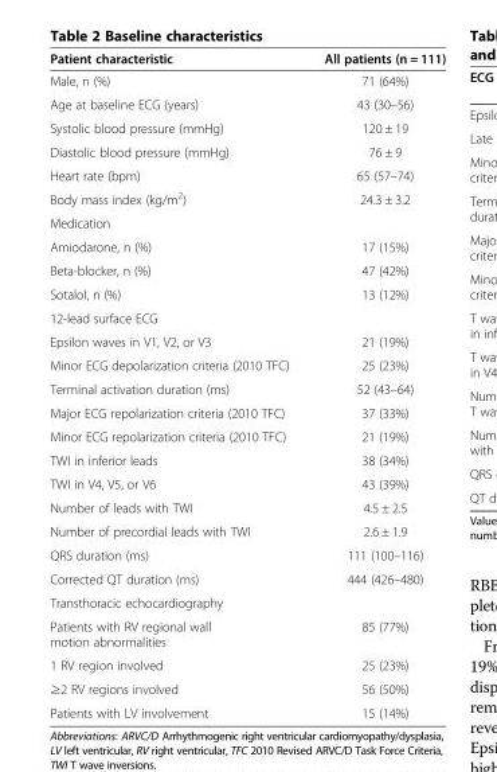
<table><thead><tr><td>Patient characteristic</td><td>All patients (n = 111)</td></tr></thead><tbody><tr><td>Male, n (%)</td><td>71 (64%)</td></tr><tr><td>Age at baseline ECG (years)</td><td>43 (30–56)</td></tr><tr><td>Systolic blood pressure (mmHg)</td><td>120 ± 19</td></tr><tr><td>Diastolic blood pressure (mmHg)</td><td>76 ± 9</td></tr><tr><td>Heart rate (bpm)</td><td>65 (57–74)</td></tr><tr><td>Body mass index (kg/m<sup>2</sup>)</td><td>24.3 ± 3.2</td></tr><tr><td colspan="2">Medication</td></tr><tr><td>Amiodarone, n (%)</td><td>17 (15%)</td></tr><tr><td>Beta-blocker, n (%)</td><td>47 (42%)</td></tr><tr><td>Sotalol, n (%)</td><td>13 (12%)</td></tr><tr><td colspan="2">12-lead surface ECG</td></tr><tr><td>Epsilon waves in V1, V2, or V3</td><td>21 (19%)</td></tr><tr><td>Minor ECG depolarization criteria (2010 TFC)</td><td>25 (23%)</td></tr><tr><td>Terminal activation duration (ms)</td><td>52 (43–64)</td></tr><tr><td>Major ECG repolarization criteria (2010 TFC)</td><td>37 (33%)</td></tr><tr><td>Minor ECG repolarization criteria (2010 TFC)</td><td>21 (19%)</td></tr><tr><td>TWI in inferior leads</td><td>38 (34%)</td></tr><tr><td>TWI in V4, V5, or V6</td><td>43 (39%)</td></tr><tr><td>Number of leads with TWI</td><td>4.5 ± 2.5</td></tr><tr><td>Number of precordial leads with TWI</td><td>2.6 ± 1.9</td></tr><tr><td>QRS duration (ms)</td><td>111 (100–116)</td></tr><tr><td>Corrected QT duration (ms)</td><td>444 (426–480)</td></tr><tr><td colspan="2">Transthoracic echocardiography</td></tr><tr><td>Patients with RV regional wall motion abnormalities</td><td>85 (77%)</td></tr><tr><td>1 RV region involved</td><td>25 (23%)</td></tr><tr><td>≥2 RV regions involved</td><td>56 (50%)</td></tr><tr><td>Patients with LV involvement</td><td>15 (14%)</td></tr></tbody></table>